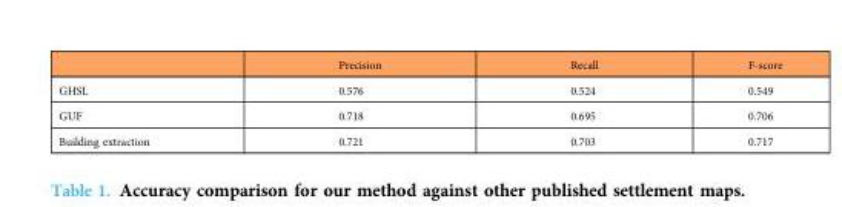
<table><thead><tr><td></td><td>Precision</td><td>Recall</td><td>F-score</td></tr></thead><tbody><tr><td>GHSL</td><td>0.576</td><td>0.524</td><td>0.549</td></tr><tr><td>GUF</td><td>0.718</td><td>0.695</td><td>0.706</td></tr><tr><td>Building extraction</td><td>0.721</td><td>0.703</td><td>0.717</td></tr></tbody></table>